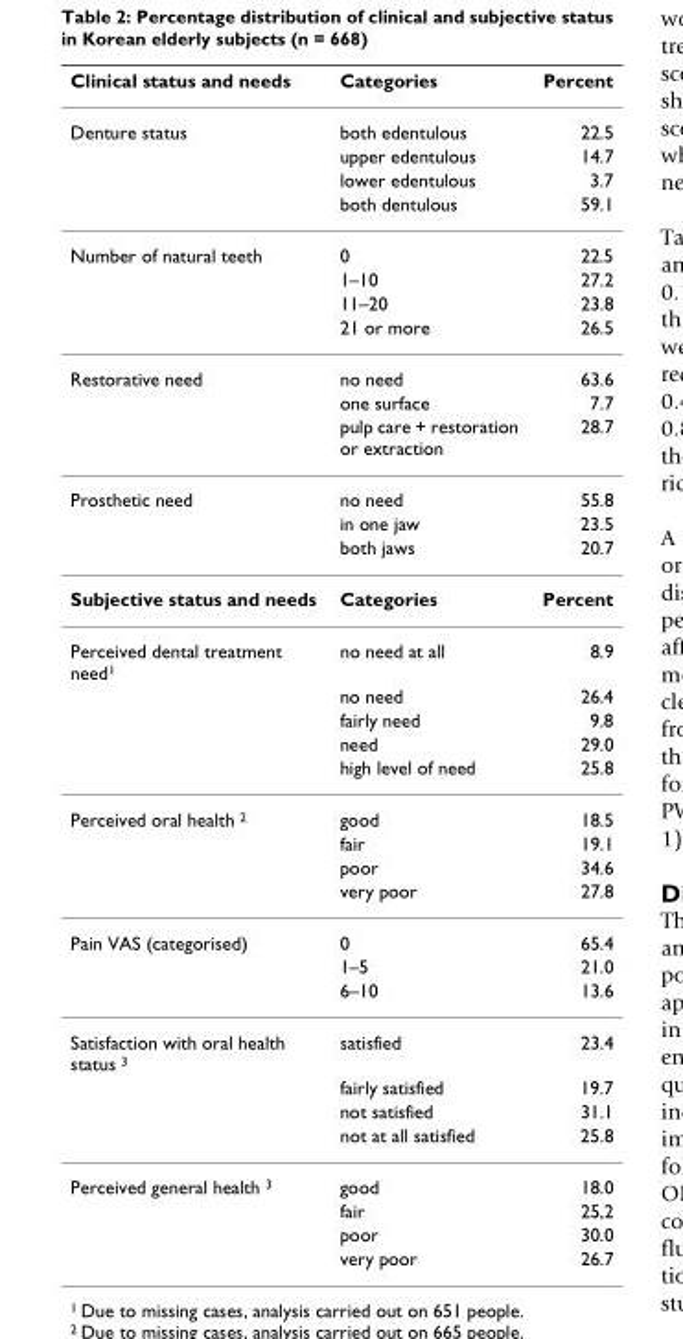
<table><thead><tr><td>Clinical status and needs</td><td>Categories</td><td>Percent</td></tr></thead><tbody><tr><td rowspan="4">Denture status</td><td>both edentulous</td><td>22.5</td></tr><tr><td>upper edentulous</td><td>14.7</td></tr><tr><td>lower edentulous</td><td>3.7</td></tr><tr><td>both dentulous</td><td>59.1</td></tr><tr><td rowspan="4">Number of natural teeth</td><td>0</td><td>22.5</td></tr><tr><td>1–10</td><td>27.2</td></tr><tr><td>11–20</td><td>23.8</td></tr><tr><td>21 or more</td><td>26.5</td></tr><tr><td rowspan="3">Restorative need</td><td>no need</td><td>63.6</td></tr><tr><td>one surface</td><td>7.7</td></tr><tr><td>pulp care + restoration or extraction</td><td>28.7</td></tr><tr><td rowspan="3">Prosthetic need</td><td>no need</td><td>55.8</td></tr><tr><td>in one jaw</td><td>23.5</td></tr><tr><td>both jaws</td><td>20.7</td></tr><tr><td>Subjective status and needs</td><td>Categories</td><td>Percent</td></tr><tr><td rowspan="5">Perceived dental treatment need<sup>1</sup></td><td>no need at all</td><td>8.9</td></tr><tr><td>no need</td><td>26.4</td></tr><tr><td>fairly need</td><td>9.8</td></tr><tr><td>need</td><td>29.0</td></tr><tr><td>high level of need</td><td>25.8</td></tr><tr><td rowspan="4">Perceived oral health <sup>2</sup></td><td>good</td><td>18.5</td></tr><tr><td>fair</td><td>19.1</td></tr><tr><td>poor</td><td>34.6</td></tr><tr><td>very poor</td><td>27.8</td></tr><tr><td rowspan="3">Pain VAS (categorised)</td><td>0</td><td>65.4</td></tr><tr><td>1–5</td><td>21.0</td></tr><tr><td>6–10</td><td>13.6</td></tr><tr><td rowspan="4">Satisfaction with oral health status <sup>3</sup></td><td>satisfied</td><td>23.4</td></tr><tr><td>fairly satisfied</td><td>19.7</td></tr><tr><td>not satisfied</td><td>31.1</td></tr><tr><td>not at all satisfied</td><td>25.8</td></tr><tr><td rowspan="4">Perceived general health <sup>3</sup></td><td>good</td><td>18.0</td></tr><tr><td>fair</td><td>25,2</td></tr><tr><td>poor</td><td>30.0</td></tr><tr><td>very poor</td><td>26.7</td></tr></tbody></table>